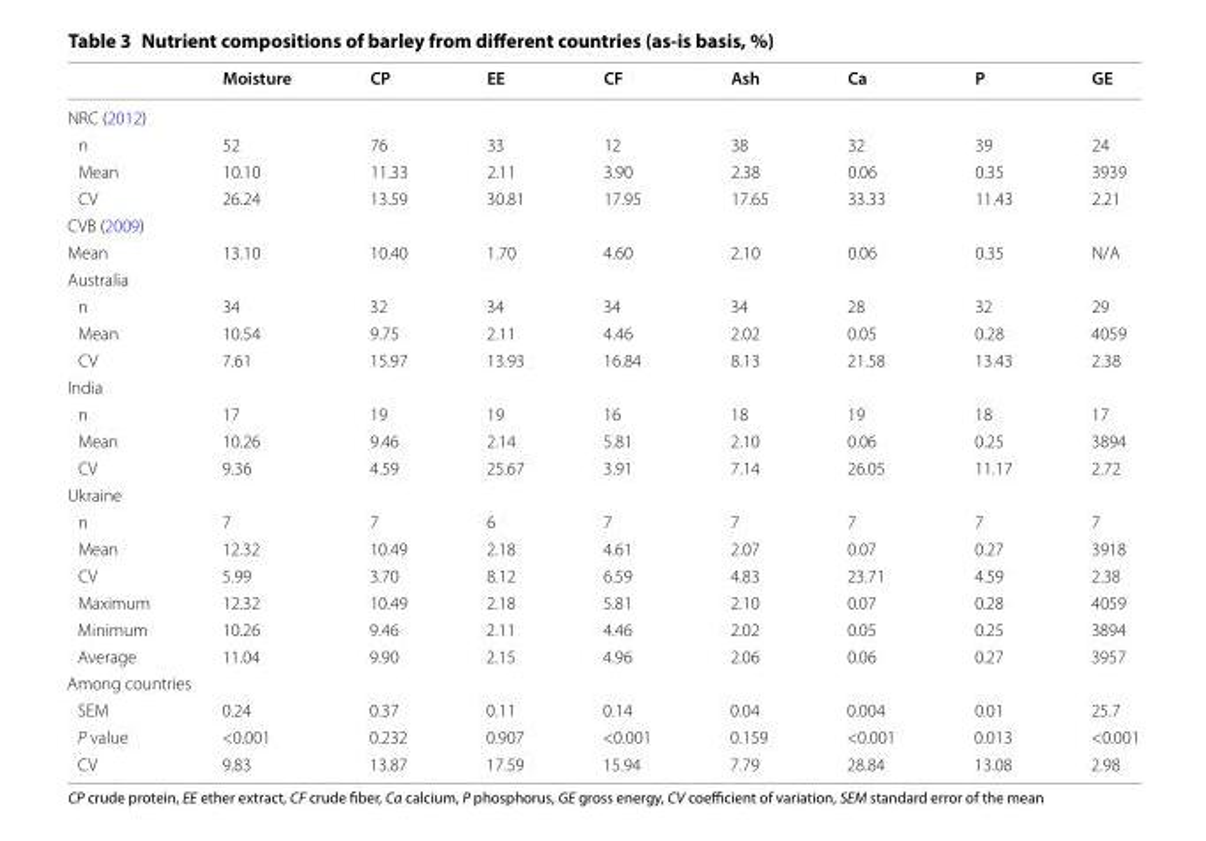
<table><thead><tr><td></td><td>Moisture</td><td>CP</td><td>EE</td><td>CF</td><td>Ash</td><td>Ca</td><td>P</td><td>GE</td></tr></thead><tbody><tr><td colspan="9">NRC (2012)</td></tr><tr><td>n</td><td>52</td><td>76</td><td>33</td><td>12</td><td>38</td><td>32</td><td>39</td><td>24</td></tr><tr><td>Mean</td><td>10.10</td><td>11.33</td><td>2.11</td><td>3.90</td><td>2.38</td><td>0.06</td><td>0.35</td><td>3939</td></tr><tr><td>CV</td><td>26.24</td><td>13.59</td><td>30.81</td><td>17.95</td><td>17.65</td><td>33.33</td><td>11.43</td><td>2.21</td></tr><tr><td colspan="9">CVB (2009)</td></tr><tr><td>Mean</td><td>13.10</td><td>10.40</td><td>1.70</td><td>4.60</td><td>2.10</td><td>0.06</td><td>0.35</td><td>N/A</td></tr><tr><td colspan="9">Australia</td></tr><tr><td>n</td><td>34</td><td>32</td><td>34</td><td>34</td><td>34</td><td>28</td><td>32</td><td>29</td></tr><tr><td>Mean</td><td>10.54</td><td>9.75</td><td>2.11</td><td>4.46</td><td>2.02</td><td>0.05</td><td>0.28</td><td>4059</td></tr><tr><td>CV</td><td>7.61</td><td>15.97</td><td>13.93</td><td>16.84</td><td>8.13</td><td>21.58</td><td>13.43</td><td>2.38</td></tr><tr><td colspan="9">India</td></tr><tr><td>n</td><td>17</td><td>19</td><td>19</td><td>16</td><td>18</td><td>19</td><td>18</td><td>17</td></tr><tr><td>Mean</td><td>10.26</td><td>9.46</td><td>2.14</td><td>5.81</td><td>2.10</td><td>0.06</td><td>0.25</td><td>3894</td></tr><tr><td>CV</td><td>9.36</td><td>4.59</td><td>25.67</td><td>3.91</td><td>7.14</td><td>26.05</td><td>11.17</td><td>2.72</td></tr><tr><td colspan="9">Ukraine</td></tr><tr><td>n</td><td>7</td><td>7</td><td>6</td><td>7</td><td>7</td><td>7</td><td>7</td><td>7</td></tr><tr><td>Mean</td><td>12.32</td><td>10.49</td><td>2.18</td><td>4.61</td><td>2.07</td><td>0.07</td><td>0.27</td><td>3918</td></tr><tr><td>CV</td><td>5.99</td><td>3.70</td><td>8.12</td><td>6.59</td><td>4.83</td><td>23.71</td><td>4.59</td><td>2.38</td></tr><tr><td>Maximum</td><td>12.32</td><td>10.49</td><td>2.18</td><td>5.81</td><td>2.10</td><td>0.07</td><td>0.28</td><td>4059</td></tr><tr><td>Minimum</td><td>10.26</td><td>9.46</td><td>2.11</td><td>4.46</td><td>2.02</td><td>0.05</td><td>0.25</td><td>3894</td></tr><tr><td>Average</td><td>11.04</td><td>9.90</td><td>2.15</td><td>4.96</td><td>2.06</td><td>0.06</td><td>0.27</td><td>3957</td></tr><tr><td colspan="9">Among countries</td></tr><tr><td>SEM</td><td>0.24</td><td>0.37</td><td>0.11</td><td>0.14</td><td>0.04</td><td>0.004</td><td>0.01</td><td>25.7</td></tr><tr><td>P value</td><td>&lt;0.001</td><td>0.232</td><td>0.907</td><td>&lt;0.001</td><td>0.159</td><td>&lt;0.001</td><td>0.013</td><td>&lt;0.001</td></tr><tr><td>CV</td><td>9.83</td><td>13.87</td><td>17.59</td><td>15.94</td><td>7.79</td><td>28.84</td><td>13.08</td><td>2.98</td></tr></tbody></table>